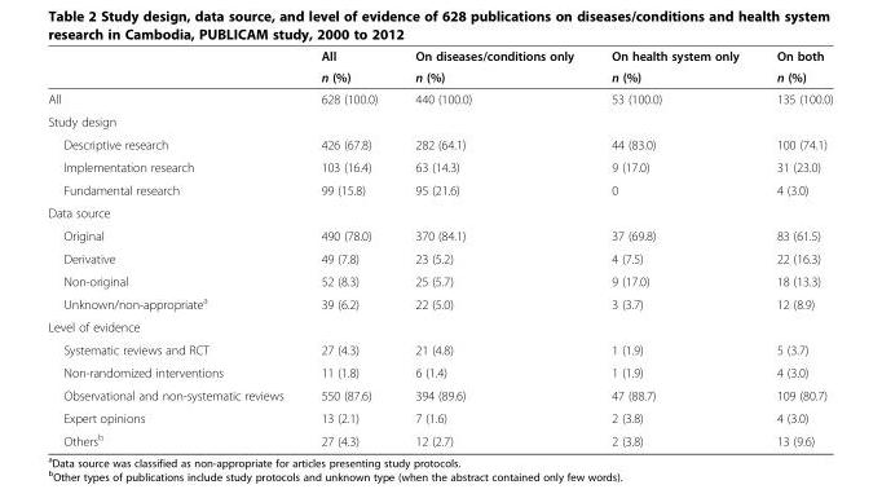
<table><thead><tr><td rowspan="2"></td><td rowspan="2">All n (%)</td><td rowspan="2">On diseases/conditions only n (%)</td><td rowspan="2">On health system only n (%)</td><td rowspan="2">On both n (%)</td></tr><tr></tr></thead><tbody><tr><td>All</td><td>628 (100.0)</td><td>440 (100.0)</td><td>53 (100.0)</td><td>135 (100.0)</td></tr><tr><td colspan="5">Study design</td></tr><tr><td>Descriptive research</td><td>426 (67.8)</td><td>282 (64.1)</td><td>44 (83.0)</td><td>100 (74.1)</td></tr><tr><td>Implementation research</td><td>103 (16.4)</td><td>63 (14.3)</td><td>9 (17.0)</td><td>31 (23.0)</td></tr><tr><td>Fundamental research</td><td>99 (15.8)</td><td>95 (21.6)</td><td>0</td><td>4 (3.0)</td></tr><tr><td colspan="5">Data source</td></tr><tr><td>Original</td><td>490 (78.0)</td><td>370 (84.1)</td><td>37 (69.8)</td><td>83 (61.5)</td></tr><tr><td>Derivative</td><td>49 (7.8)</td><td>23 (5.2)</td><td>4 (7.5)</td><td>22 (16.3)</td></tr><tr><td>Non-original</td><td>52 (8.3)</td><td>25 (5.7)</td><td>9 (17.0)</td><td>18 (13.3)</td></tr><tr><td>Unknown/non-appropriate<sup>a</sup></td><td>39 (6.2)</td><td>22 (5.0)</td><td>3 (3.7)</td><td>12 (8.9)</td></tr><tr><td colspan="5">Level of evidence</td></tr><tr><td>Systematic reviews and RCT</td><td>27 (4.3)</td><td>21 (4.8)</td><td>1 (1.9)</td><td>5 (3.7)</td></tr><tr><td>Non-randomized interventions</td><td>11 (1.8)</td><td>6 (1.4)</td><td>1 (1.9)</td><td>4 (3.0)</td></tr><tr><td>Observational and non-systematic reviews</td><td>550 (87.6)</td><td>394 (89.6)</td><td>47 (88.7)</td><td>109 (80.7)</td></tr><tr><td>Expert opinions</td><td>13 (2.1)</td><td>7 (1.6)</td><td>2 (3.8)</td><td>4 (3.0)</td></tr><tr><td>Others<sup>b</sup></td><td>27 (4.3)</td><td>12 (2.7)</td><td>2 (3.8)</td><td>13 (9.6)</td></tr></tbody></table>